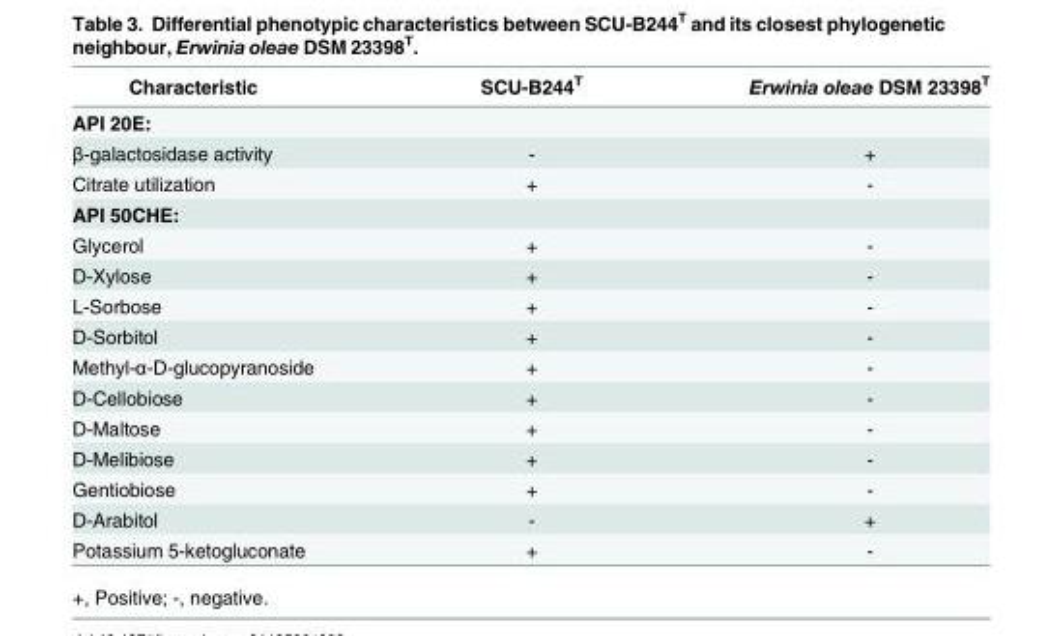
<table><thead><tr><td>Characteristic</td><td>SCU-B244<sup>T</sup></td><td>Erwinia oleae DSM 23398<sup>T</sup></td></tr></thead><tbody><tr><td colspan="3">API 20E:</td></tr><tr><td>β-galactosidase activity</td><td>-</td><td>+</td></tr><tr><td>Citrate utilization</td><td>+</td><td>-</td></tr><tr><td colspan="3">API 50CHE:</td></tr><tr><td>Glycerol</td><td>+</td><td>-</td></tr><tr><td>D-Xylose</td><td>+</td><td>-</td></tr><tr><td>L-Sorbose</td><td>+</td><td>-</td></tr><tr><td>D-Sorbitol</td><td>+</td><td>-</td></tr><tr><td>Methyl-α-D-glucopyranoside</td><td>+</td><td>-</td></tr><tr><td>D-Cellobiose</td><td>+</td><td>-</td></tr><tr><td>D-Maltose</td><td>+</td><td>-</td></tr><tr><td>D-Melibiose</td><td>+</td><td>-</td></tr><tr><td>Gentiobiose</td><td>+</td><td>-</td></tr><tr><td>D-Arabitol</td><td>-</td><td>+</td></tr><tr><td>Potassium 5-ketogluconate</td><td>+</td><td>-</td></tr></tbody></table>